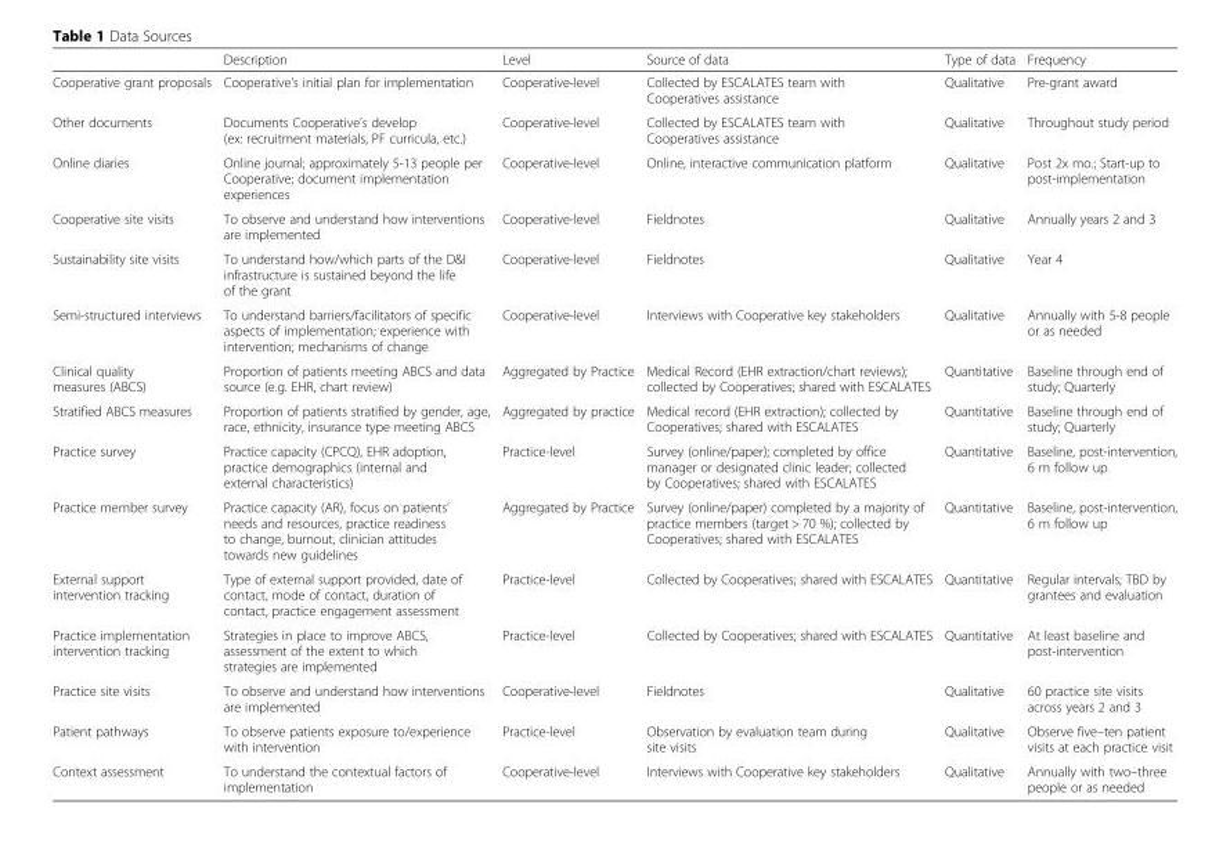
<table><thead><tr><td></td><td>Description</td><td>Level</td><td>Source of data</td><td>Type of data</td><td>Frequency</td></tr></thead><tbody><tr><td>Cooperative grant proposals</td><td>Cooperative’s initial plan for implementation</td><td>Cooperative-level</td><td>Collected by ESCALATES team with Cooperatives assistance</td><td>Qualitative</td><td>Pre-grant award</td></tr><tr><td>Other documents</td><td>Documents Cooperative’s develop (ex: recruitment materials, PF curricula, etc.)</td><td>Cooperative-level</td><td>Collected by ESCALATES team with Cooperatives assistance</td><td>Qualitative</td><td>Throughout study period</td></tr><tr><td>Online diaries</td><td>Online journal; approximately 5-13 people per Cooperative; document implementation experiences</td><td>Cooperative-level</td><td>Online, interactive communication platform</td><td>Qualitative</td><td>Post 2x mo.; Start-up to post-implementation</td></tr><tr><td>Cooperative site visits</td><td>To observe and understand how interventions are implemented</td><td>Cooperative-level</td><td>Fieldnotes</td><td>Qualitative</td><td>Annually years 2 and 3</td></tr><tr><td>Sustainability site visits</td><td>To understand how/which parts of the D&amp;I infrastructure is sustained beyond the life of the grant</td><td>Cooperative-level</td><td>Fieldnotes</td><td>Qualitative</td><td>Year 4</td></tr><tr><td>Semi-structured interviews</td><td>To understand barriers/facilitators of specific aspects of implementation; experience with intervention; mechanisms of change</td><td>Cooperative-level</td><td>Interviews with Cooperative key stakeholders</td><td>Qualitative</td><td>Annually with 5-8 people or as needed</td></tr><tr><td>Clinical quality measures (ABCS)</td><td>Proportion of patients meeting ABCS and data source (e.g. EHR, chart review)</td><td>Aggregated by Practice</td><td>Medical Record (EHR extraction/chart reviews); collected by Cooperatives; shared with ESCALATES</td><td>Quantitative</td><td>Baseline through end of study; Quarterly</td></tr><tr><td>Stratified ABCS measures</td><td>Proportion of patients stratified by gender, age, race, ethnicity, insurance type meeting ABCS</td><td>Aggregated by practice</td><td>Medical record (EHR extraction); collected by Cooperatives; shared with ESCALATES</td><td>Quantitative</td><td>Baseline through end of study; Quarterly</td></tr><tr><td>Practice survey</td><td>Practice capacity (CPCQ), EHR adoption, practice demographics (internal and external characteristics)</td><td>Practice-level</td><td>Survey (online/paper); completed by office manager or designated clinic leader; collected by Cooperatives; shared with ESCALATES</td><td>Quantitative</td><td>Baseline, post-intervention, 6 m follow up</td></tr><tr><td>Practice member survey</td><td>Practice capacity (AR), focus on patients’ needs and resources, practice readiness to change, burnout, clinician attitudes towards new guidelines</td><td>Aggregated by Practice</td><td>Survey (online/paper) completed by a majority of practice members (target &gt; 70 %); collected by Cooperatives; shared with ESCALATES</td><td>Quantitative</td><td>Baseline, post-intervention, 6 m follow up</td></tr><tr><td>External support intervention tracking</td><td>Type of external support provided, date of contact, mode of contact, duration of contact, practice engagement assessment</td><td>Practice-level</td><td>Collected by Cooperatives; shared with ESCALATES</td><td>Quantitative</td><td>Regular intervals; TBD by grantees and evaluation</td></tr><tr><td>Practice implementation intervention tracking</td><td>Strategies in place to improve ABCS, assessment of the extent to which strategies are implemented</td><td>Practice-level</td><td>Collected by Cooperatives; shared with ESCALATES</td><td>Quantitative</td><td>At least baseline and post-intervention</td></tr><tr><td>Practice site visits</td><td>To observe and understand how interventions are implemented</td><td>Cooperative-level</td><td>Fieldnotes</td><td>Qualitative</td><td>60 practice site visits across years 2 and 3</td></tr><tr><td>Patient pathways</td><td>To observe patients exposure to/experience with intervention</td><td>Practice-level</td><td>Observation by evaluation team during site visits</td><td>Qualitative</td><td>Observe five–ten patient visits at each practice visit</td></tr><tr><td>Context assessment</td><td>To understand the contextual factors of implementation</td><td>Cooperative-level</td><td>Interviews with Cooperative key stakeholders</td><td>Qualitative</td><td>Annually with two–three people or as needed</td></tr></tbody></table>